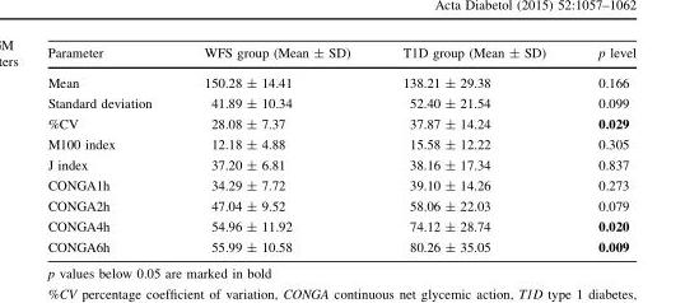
<table><thead><tr><td>Parameter</td><td>WFS group (Mean ± SD)</td><td>T1D group (Mean ± SD)</td><td>p level</td></tr></thead><tbody><tr><td>Mean</td><td>150.28 ± 14.41</td><td>138.21 ± 29.38</td><td>0.166</td></tr><tr><td>Standard deviation</td><td>41.89 ± 10.34</td><td>52.40 ± 21.54</td><td>0.099</td></tr><tr><td>%CV</td><td>28.08 ± 7.37</td><td>37.87 ± 14.24</td><td>0.029</td></tr><tr><td>M100 index</td><td>12.18 ± 4.88</td><td>15.58 ± 12.22</td><td>0.305</td></tr><tr><td>J index</td><td>37.20 ± 6.81</td><td>38.16 ± 17.34</td><td>0.837</td></tr><tr><td>CONGA1h</td><td>34.29 ± 7.72</td><td>39.10 ± 14.26</td><td>0.273</td></tr><tr><td>CONGA2h</td><td>47.04 ± 9.52</td><td>58.06 ± 22.03</td><td>0.079</td></tr><tr><td>CONGA4h</td><td>54.96 ± 11.92</td><td>74.12 ± 28.74</td><td>0.020</td></tr><tr><td>CONGA6h</td><td>55.99 ± 10.58</td><td>80.26 ± 35.05</td><td>0.009</td></tr></tbody></table>